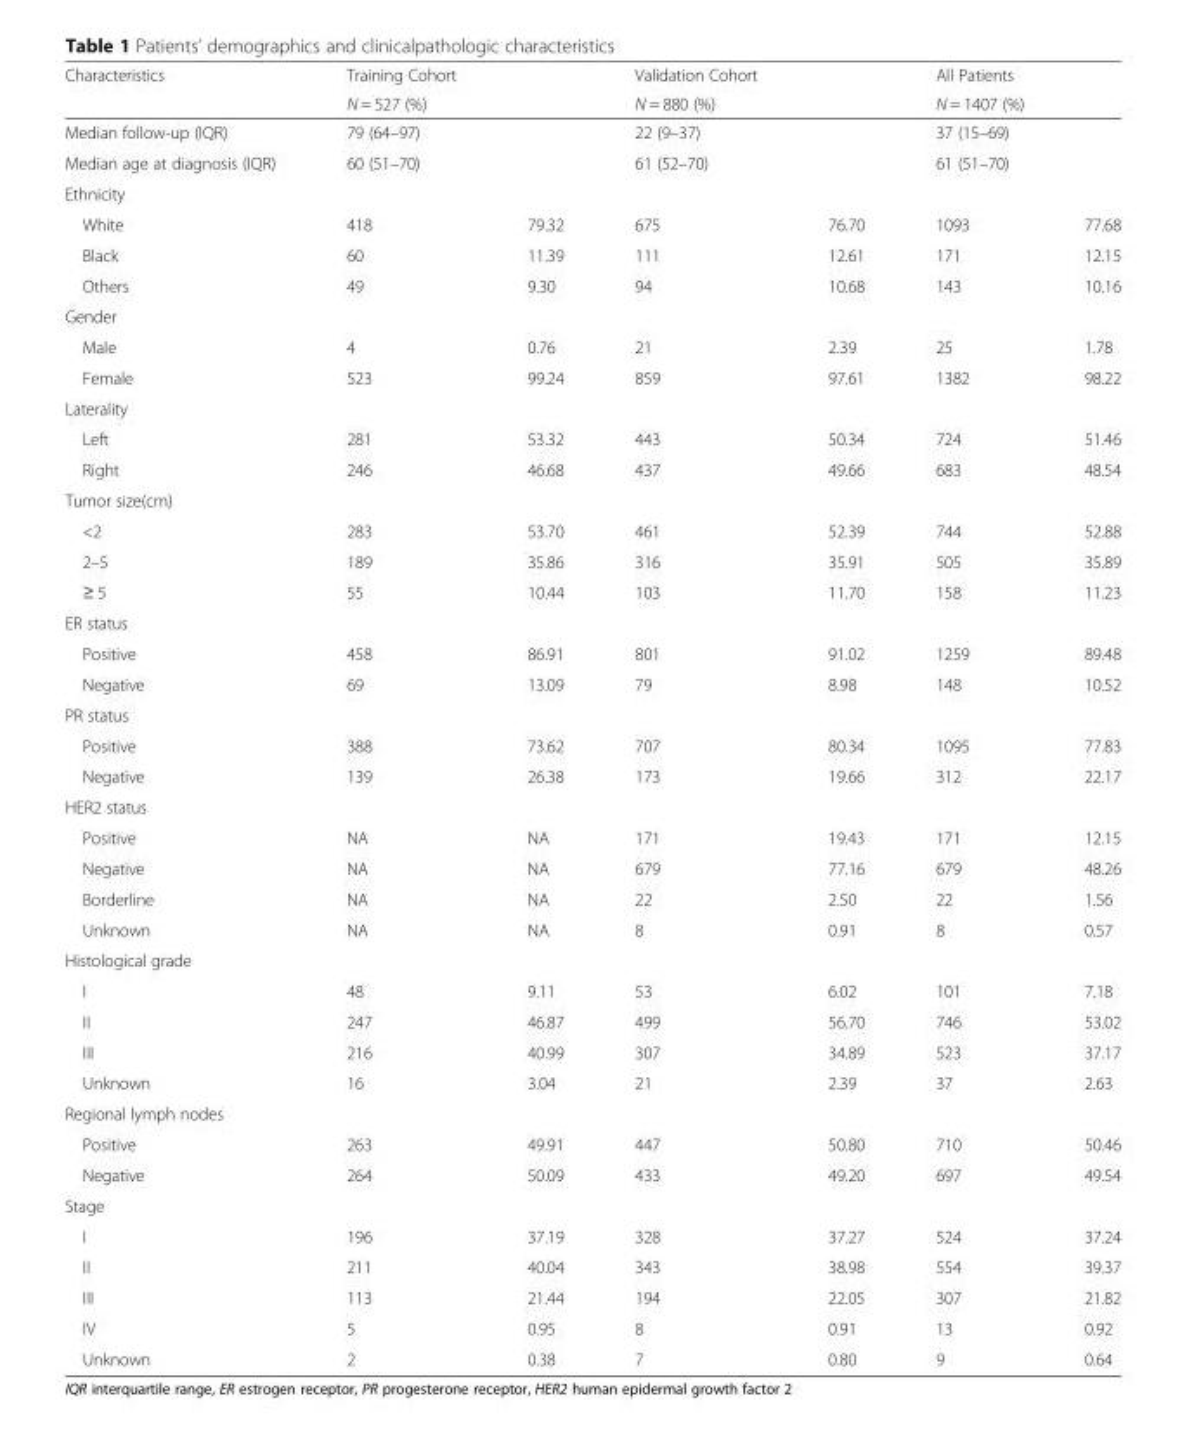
<table><thead><tr><td rowspan="2">Characteristics</td><td>Training Cohort</td><td></td><td>Validation Cohort</td><td></td><td>All Patients</td><td></td></tr><tr><td colspan="2">N = 527 (%)</td><td colspan="2">N = 880 (%)</td><td colspan="2">N = 1407 (%)</td></tr></thead><tbody><tr><td>Median follow-up (IQR)</td><td colspan="2">79 (64–97)</td><td colspan="2">22 (9–37)</td><td colspan="2">37 (15–69)</td></tr><tr><td>Median age at diagnosis (IQR)</td><td colspan="2">60 (51–70)</td><td colspan="2">61 (52–70)</td><td colspan="2">61 (51–70)</td></tr><tr><td colspan="7">Ethnicity</td></tr><tr><td>White</td><td>418</td><td>79.32</td><td>675</td><td>76.70</td><td>1093</td><td>77.68</td></tr><tr><td>Black</td><td>60</td><td>11.39</td><td>111</td><td>12.61</td><td>171</td><td>12.15</td></tr><tr><td>Others</td><td>49</td><td>9.30</td><td>94</td><td>10.68</td><td>143</td><td>10.16</td></tr><tr><td colspan="7">Gender</td></tr><tr><td>Male</td><td>4</td><td>0.76</td><td>21</td><td>2.39</td><td>25</td><td>1.78</td></tr><tr><td>Female</td><td>523</td><td>99.24</td><td>859</td><td>97.61</td><td>1382</td><td>98.22</td></tr><tr><td colspan="7">Laterality</td></tr><tr><td>Left</td><td>281</td><td>53.32</td><td>443</td><td>50.34</td><td>724</td><td>51.46</td></tr><tr><td>Right</td><td>246</td><td>46.68</td><td>437</td><td>49.66</td><td>683</td><td>48.54</td></tr><tr><td colspan="7">Tumor size(cm)</td></tr><tr><td>&lt;2</td><td>283</td><td>53.70</td><td>461</td><td>52.39</td><td>744</td><td>52.88</td></tr><tr><td>2–5</td><td>189</td><td>35.86</td><td>316</td><td>35.91</td><td>505</td><td>35.89</td></tr><tr><td>≥ 5</td><td>55</td><td>10.44</td><td>103</td><td>11.70</td><td>158</td><td>11.23</td></tr><tr><td colspan="7">ER status</td></tr><tr><td>Positive</td><td>458</td><td>86.91</td><td>801</td><td>91.02</td><td>1259</td><td>89.48</td></tr><tr><td>Negative</td><td>69</td><td>13.09</td><td>79</td><td>8.98</td><td>148</td><td>10.52</td></tr><tr><td colspan="7">PR status</td></tr><tr><td>Positive</td><td>388</td><td>73.62</td><td>707</td><td>80.34</td><td>1095</td><td>77.83</td></tr><tr><td>Negative</td><td>139</td><td>26.38</td><td>173</td><td>19.66</td><td>312</td><td>22.17</td></tr><tr><td colspan="7">HER2 status</td></tr><tr><td>Positive</td><td>NA</td><td>NA</td><td>171</td><td>19.43</td><td>171</td><td>12.15</td></tr><tr><td>Negative</td><td>NA</td><td>NA</td><td>679</td><td>77.16</td><td>679</td><td>48.26</td></tr><tr><td>Borderline</td><td>NA</td><td>NA</td><td>22</td><td>2.50</td><td>22</td><td>1.56</td></tr><tr><td>Unknown</td><td>NA</td><td>NA</td><td>8</td><td>0.91</td><td>8</td><td>0.57</td></tr><tr><td colspan="7">Histological grade</td></tr><tr><td>I</td><td>48</td><td>9.11</td><td>53</td><td>6.02</td><td>101</td><td>7.18</td></tr><tr><td>II</td><td>247</td><td>46.87</td><td>499</td><td>56.70</td><td>746</td><td>53.02</td></tr><tr><td>III</td><td>216</td><td>40.99</td><td>307</td><td>34.89</td><td>523</td><td>37.17</td></tr><tr><td>Unknown</td><td>16</td><td>3.04</td><td>21</td><td>2.39</td><td>37</td><td>2.63</td></tr><tr><td colspan="7">Regional lymph nodes</td></tr><tr><td>Positive</td><td>263</td><td>49.91</td><td>447</td><td>50.80</td><td>710</td><td>50.46</td></tr><tr><td>Negative</td><td>264</td><td>50.09</td><td>433</td><td>49.20</td><td>697</td><td>49.54</td></tr><tr><td colspan="7">Stage</td></tr><tr><td>I</td><td>196</td><td>37.19</td><td>328</td><td>37.27</td><td>524</td><td>37.24</td></tr><tr><td>II</td><td>211</td><td>40.04</td><td>343</td><td>38.98</td><td>554</td><td>39.37</td></tr><tr><td>III</td><td>113</td><td>21.44</td><td>194</td><td>22.05</td><td>307</td><td>21.82</td></tr><tr><td>IV</td><td>5</td><td>0.95</td><td>8</td><td>0.91</td><td>13</td><td>0.92</td></tr><tr><td>Unknown</td><td>2</td><td>0.38</td><td>7</td><td>0.80</td><td>9</td><td>0.64</td></tr></tbody></table>